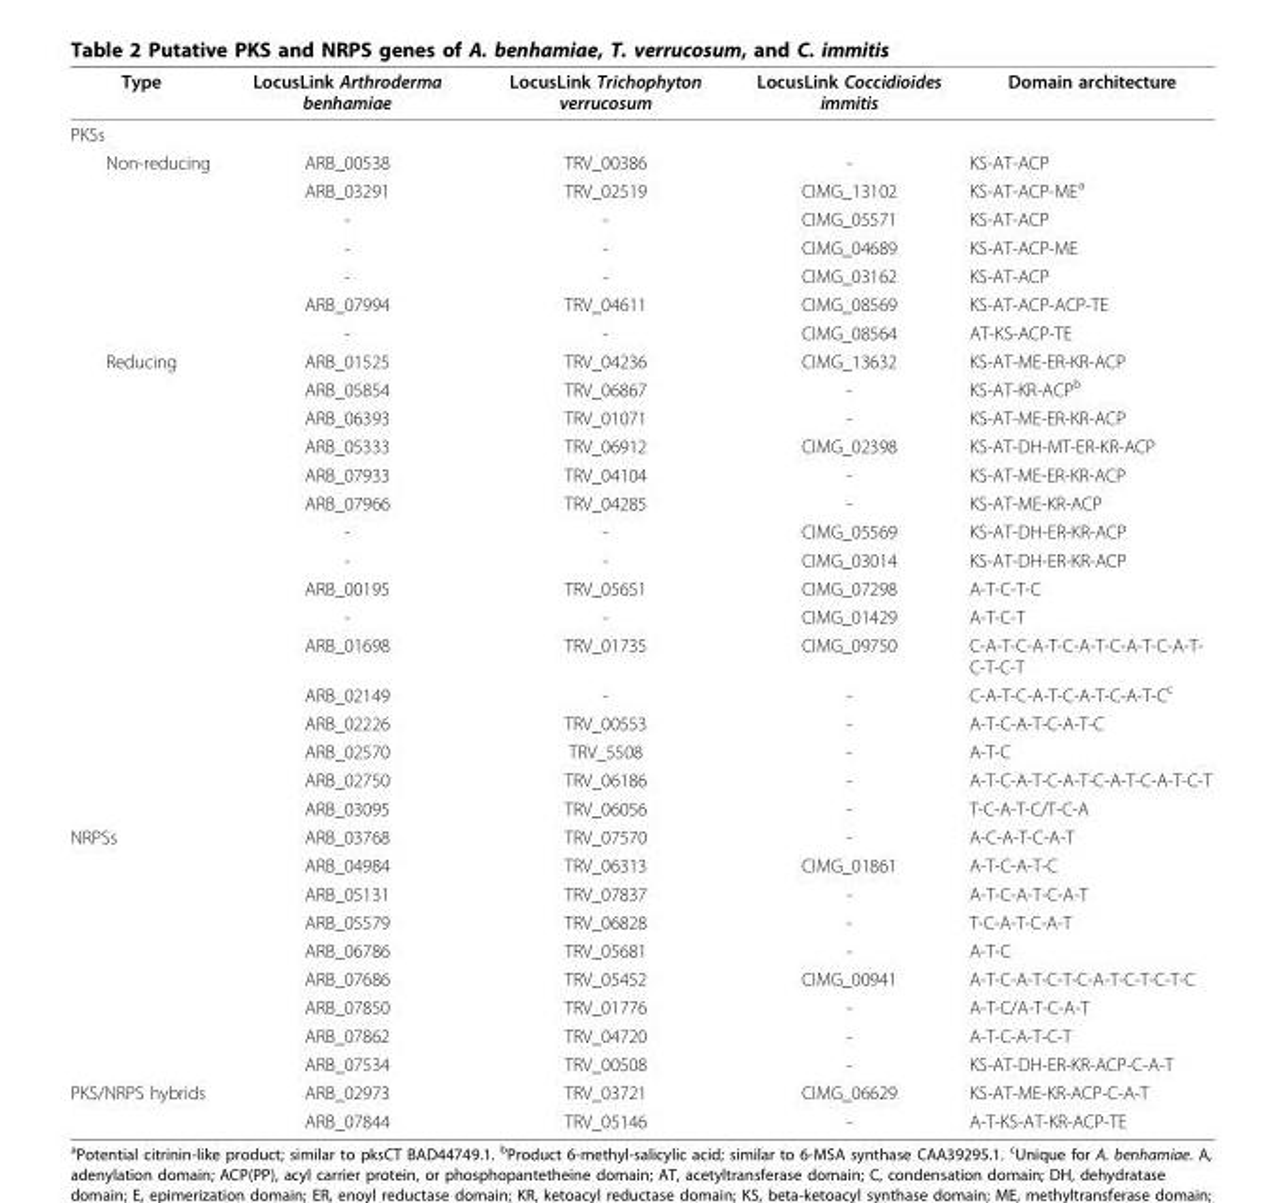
<table><thead><tr><td>Type</td><td>LocusLink Arthroderma benhamiae</td><td>LocusLink Trichophyton verrucosum</td><td>LocusLink Coccidioides immitis</td><td>Domain architecture</td></tr></thead><tbody><tr><td colspan="5">PKSs</td></tr><tr><td rowspan="7">Non-reducing</td><td>ARB_00538</td><td>TRV_00386</td><td>-</td><td>KS-AT-ACP</td></tr><tr><td>ARB_03291</td><td>TRV_02519</td><td>CIMG_13102</td><td>KS-AT-ACP-ME<sup>a</sup></td></tr><tr><td>-</td><td>-</td><td>CIMG_05571</td><td>KS-AT-ACP</td></tr><tr><td>-</td><td>-</td><td>CIMG_04689</td><td>KS-AT-ACP-ME</td></tr><tr><td>-</td><td>-</td><td>CIMG_03162</td><td>KS-AT-ACP</td></tr><tr><td>ARB_07994</td><td>TRV_04611</td><td>CIMG_08569</td><td>KS-AT-ACP-ACP-TE</td></tr><tr><td>-</td><td>-</td><td>CIMG_08564</td><td>AT-KS-ACP-TE</td></tr><tr><td rowspan="16">Reducing</td><td>ARB_01525</td><td>TRV_04236</td><td>CIMG_13632</td><td>KS-AT-ME-ER-KR-ACP</td></tr><tr><td>ARB_05854</td><td>TRV_06867</td><td>-</td><td>KS-AT-KR-ACP<sup>b</sup></td></tr><tr><td>ARB_06393</td><td>TRV_01071</td><td>-</td><td>KS-AT-ME-ER-KR-ACP</td></tr><tr><td>ARB_05333</td><td>TRV_06912</td><td>CIMG_02398</td><td>KS-AT-DH-MT-ER-KR-ACP</td></tr><tr><td>ARB_07933</td><td>TRV_04104</td><td>-</td><td>KS-AT-ME-ER-KR-ACP</td></tr><tr><td>ARB_07966</td><td>TRV_04285</td><td>-</td><td>KS-AT-ME-KR-ACP</td></tr><tr><td>-</td><td>-</td><td>CIMG_05569</td><td>KS-AT-DH-ER-KR-ACP</td></tr><tr><td>-</td><td>-</td><td>CIMG_03014</td><td>KS-AT-DH-ER-KR-ACP</td></tr><tr><td>ARB_00195</td><td>TRV_05651</td><td>CIMG_07298</td><td>A-T-C-T-C</td></tr><tr><td>-</td><td>-</td><td>CIMG_01429</td><td>A-T-C-T</td></tr><tr><td>ARB_01698</td><td>TRV_01735</td><td>CIMG_09750</td><td>C-A-T-C-A-T-C-A-T-C-A-T-C-A-T- C-T-C-T</td></tr><tr><td>ARB_02149</td><td>-</td><td>-</td><td>C-A-T-C-A-T-C-A-T-C-A-T-C<sup>c</sup></td></tr><tr><td>ARB_02226</td><td>TRV_00553</td><td>-</td><td>A-T-C-A-T-C-A-T-C</td></tr><tr><td>ARB_02570</td><td>TRV_5508</td><td>-</td><td>A-T-C</td></tr><tr><td>ARB_02750</td><td>TRV_06186</td><td>-</td><td>A-T-C-A-T-C-A-T-C-A-T-C-A-T-C-T</td></tr><tr><td>ARB_03095</td><td>TRV_06056</td><td>-</td><td>T-C-A-T-C/T-C-A</td></tr><tr><td rowspan="9">NRPSs</td><td>ARB_03768</td><td>TRV_07570</td><td>-</td><td>A-C-A-T-C-A-T</td></tr><tr><td>ARB_04984</td><td>TRV_06313</td><td>CIMG_01861</td><td>A-T-C-A-T-C</td></tr><tr><td>ARB_05131</td><td>TRV_07837</td><td>-</td><td>A-T-C-A-T-C-A-T</td></tr><tr><td>ARB_05579</td><td>TRV_06828</td><td>-</td><td>T-C-A-T-C-A-T</td></tr><tr><td>ARB_06786</td><td>TRV_05681</td><td>-</td><td>A-T-C</td></tr><tr><td>ARB_07686</td><td>TRV_05452</td><td>CIMG_00941</td><td>A-T-C-A-T-C-T-C-A-T-C-T-C-T-C</td></tr><tr><td>ARB_07850</td><td>TRV_01776</td><td>-</td><td>A-T-C/A-T-C-A-T</td></tr><tr><td>ARB_07862</td><td>TRV_04720</td><td>-</td><td>A-T-C-A-T-C-T</td></tr><tr><td>ARB_07534</td><td>TRV_00508</td><td>-</td><td>KS-AT-DH-ER-KR-ACP-C-A-T</td></tr><tr><td rowspan="2">PKS/NRPS hybrids</td><td>ARB_02973</td><td>TRV_03721</td><td>CIMG_06629</td><td>KS-AT-ME-KR-ACP-C-A-T</td></tr><tr><td>ARB_07844</td><td>TRV_05146</td><td>-</td><td>A-T-KS-AT-KR-ACP-TE</td></tr></tbody></table>